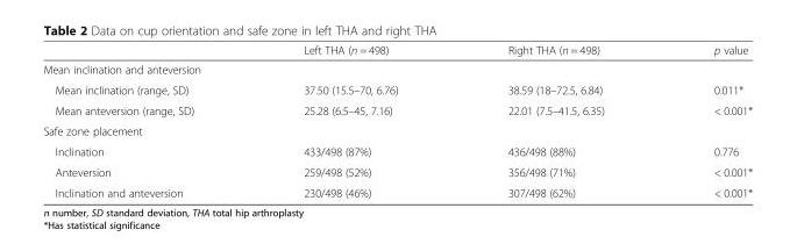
<table><thead><tr><td></td><td>Left THA (n = 498)</td><td>Right THA (n = 498)</td><td>p value</td></tr></thead><tbody><tr><td colspan="4">Mean inclination and anteversion</td></tr><tr><td>Mean inclination (range, SD)</td><td>37.50 (15.5–70, 6.76)</td><td>38.59 (18–72.5, 6.84)</td><td>0.011*</td></tr><tr><td>Mean anteversion (range, SD)</td><td>25.28 (6.5–45, 7.16)</td><td>22.01 (7.5–41.5, 6.35)</td><td>&lt; 0.001*</td></tr><tr><td colspan="4">Safe zone placement</td></tr><tr><td>Inclination</td><td>433/498 (87%)</td><td>436/498 (88%)</td><td>0.776</td></tr><tr><td>Anteversion</td><td>259/498 (52%)</td><td>356/498 (71%)</td><td>&lt; 0.001*</td></tr><tr><td>Inclination and anteversion</td><td>230/498 (46%)</td><td>307/498 (62%)</td><td>&lt; 0.001*</td></tr></tbody></table>